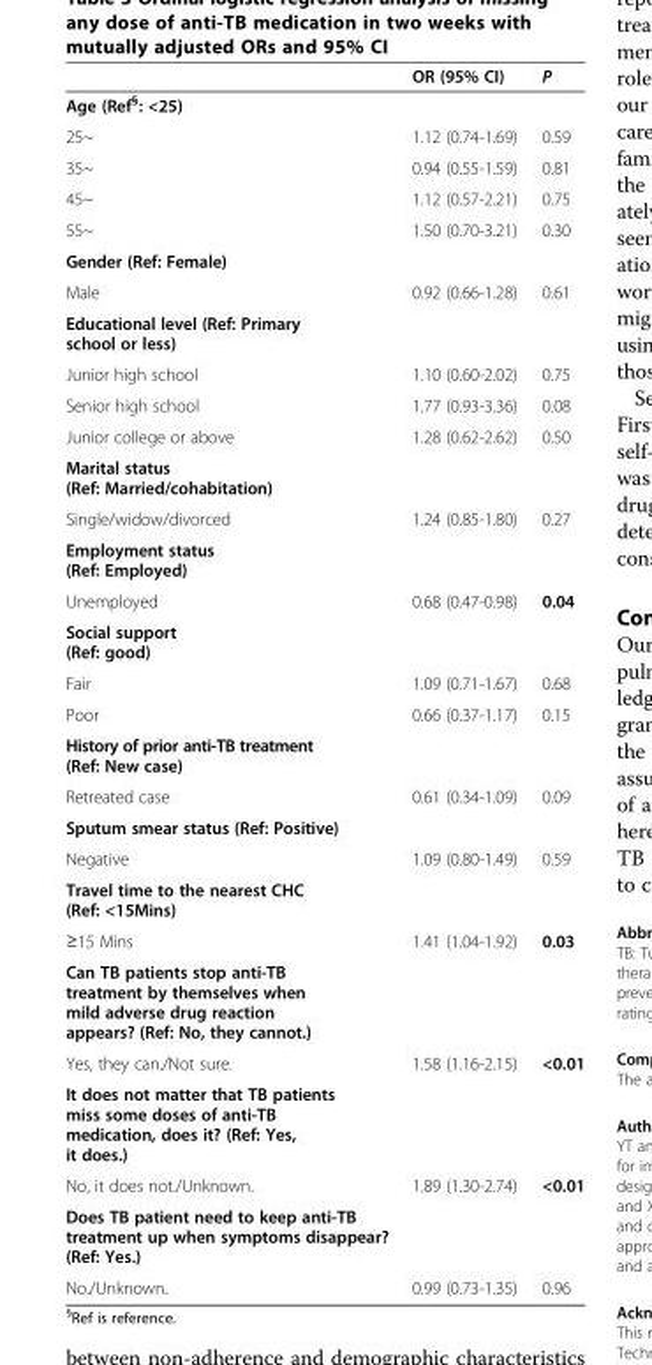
<table><thead><tr><td></td><td>OR (95% CI)</td><td>P</td></tr></thead><tbody><tr><td colspan="3">Age (Ref<sup>§</sup>: &lt;25)</td></tr><tr><td>25~</td><td>1.12 (0.74-1.69)</td><td>0.59</td></tr><tr><td>35~</td><td>0.94 (0.55-1.59)</td><td>0.81</td></tr><tr><td>45~</td><td>1.12 (0.57-2.21)</td><td>0.75</td></tr><tr><td>55~</td><td>1.50 (0.70-3.21)</td><td>0.30</td></tr><tr><td colspan="3">Gender (Ref: Female)</td></tr><tr><td>Male</td><td>0.92 (0.66-1.28)</td><td>0.61</td></tr><tr><td colspan="3">Educational level (Ref: Primary school or less)</td></tr><tr><td>Junior high school</td><td>1.10 (0.60-2.02)</td><td>0.75</td></tr><tr><td>Senior high school</td><td>1.77 (0.93-3.36)</td><td>0.08</td></tr><tr><td>Junior college or above</td><td>1.28 (0.62-2.62)</td><td>0.50</td></tr><tr><td colspan="3">Marital status (Ref: Married/cohabitation)</td></tr><tr><td>Single/widow/divorced</td><td>1.24 (0.85-1.80)</td><td>0.27</td></tr><tr><td colspan="3">Employment status (Ref: Employed)</td></tr><tr><td>Unemployed</td><td>0.68 (0.47-0.98)</td><td>0.04</td></tr><tr><td colspan="3">Social support (Ref: good)</td></tr><tr><td>Fair</td><td>1.09 (0.71-1.67)</td><td>0.68</td></tr><tr><td>Poor</td><td>0.66 (0.37-1.17)</td><td>0.15</td></tr><tr><td colspan="3">History of prior anti-TB treatment (Ref: New case)</td></tr><tr><td>Retreated case</td><td>0.61 (0.34-1.09)</td><td>0.09</td></tr><tr><td colspan="3">Sputum smear status (Ref: Positive)</td></tr><tr><td>Negative</td><td>1.09 (0.80-1.49)</td><td>0.59</td></tr><tr><td colspan="3">Travel time to the nearest CHC (Ref: &lt;15Mins)</td></tr><tr><td>≥15 Mins</td><td>1.41 (1.04-1.92)</td><td>0.03</td></tr><tr><td colspan="3">Can TB patients stop anti-TB treatment by themselves when mild adverse drug reaction appears? (Ref: No, they cannot.)</td></tr><tr><td>Yes, they can./Not sure.</td><td>1.58 (1.16-2.15)</td><td>&lt;0.01</td></tr><tr><td colspan="3">It does not matter that TB patients miss some doses of anti-TB medication, does it? (Ref: Yes, it does.)</td></tr><tr><td>No, it does not./Unknown.</td><td>1.89 (1.30-2.74)</td><td>&lt;0.01</td></tr><tr><td colspan="3">Does TB patient need to keep anti-TB treatment up when symptoms disappear? (Ref: Yes.)</td></tr><tr><td>No./Unknown.</td><td>0.99 (0.73-1.35)</td><td>0.96</td></tr></tbody></table>